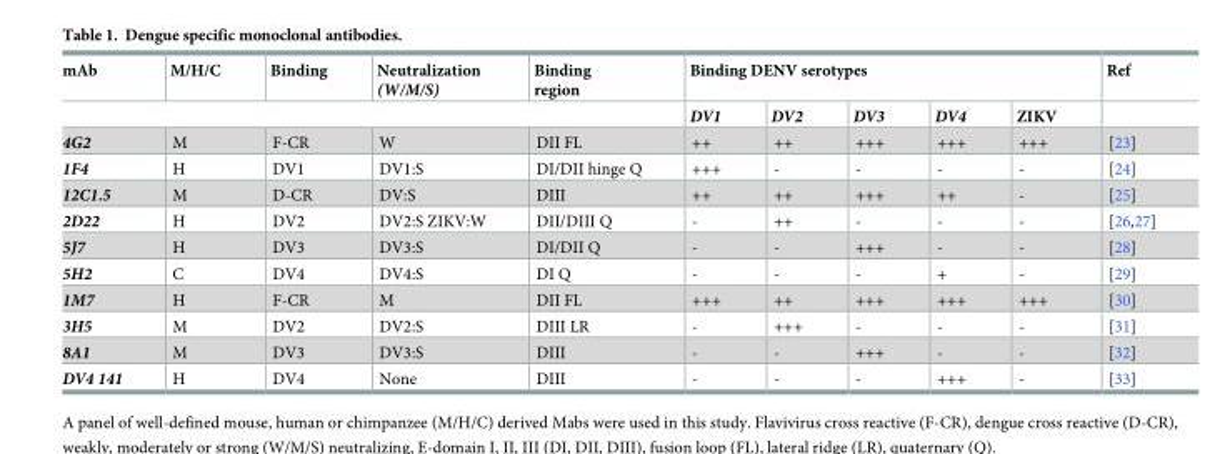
<table><thead><tr><td rowspan="2">mAb</td><td rowspan="2">M/H/C</td><td rowspan="2">Binding</td><td rowspan="2">Neutralization (W/M/S)</td><td rowspan="2">Binding region</td><td colspan="5">Binding DENV serotypes</td><td rowspan="2">Ref</td></tr><tr><td>DV1</td><td>DV2</td><td>DV3</td><td>DV4</td><td>ZIKV</td></tr></thead><tbody><tr><td>4G2</td><td>M</td><td>F-CR</td><td>W</td><td>DII FL</td><td>++</td><td>++</td><td>+++</td><td>+++</td><td>+++</td><td>[23]</td></tr><tr><td>1F4</td><td>H</td><td>DV1</td><td>DV1:S</td><td>DI/DII hinge Q</td><td>+++</td><td>-</td><td>-</td><td>-</td><td>-</td><td>[24]</td></tr><tr><td>12C1.5</td><td>M</td><td>D-CR</td><td>DV:S</td><td>DIII</td><td>++</td><td>++</td><td>+++</td><td>++</td><td>-</td><td>[25]</td></tr><tr><td>2D22</td><td>H</td><td>DV2</td><td>DV2:S ZIKV:W</td><td>DII/DIII Q</td><td>-</td><td>++</td><td>-</td><td>-</td><td>-</td><td>[26,27]</td></tr><tr><td>5J7</td><td>H</td><td>DV3</td><td>DV3:S</td><td>DI/DII Q</td><td>-</td><td>-</td><td>+++</td><td>-</td><td>-</td><td>[28]</td></tr><tr><td>5H2</td><td>C</td><td>DV4</td><td>DV4:S</td><td>DI Q</td><td>-</td><td>-</td><td>-</td><td>+</td><td>-</td><td>[29]</td></tr><tr><td>1M7</td><td>H</td><td>F-CR</td><td>M</td><td>DII FL</td><td>+++</td><td>++</td><td>+++</td><td>+++</td><td>+++</td><td>[30]</td></tr><tr><td>3H5</td><td>M</td><td>DV2</td><td>DV2:S</td><td>DIII LR</td><td>-</td><td>+++</td><td>-</td><td>-</td><td>-</td><td>[31]</td></tr><tr><td>8A1</td><td>M</td><td>DV3</td><td>DV3:S</td><td>DIII</td><td>-</td><td>-</td><td>+++</td><td>-</td><td>-</td><td>[32]</td></tr><tr><td>DV4 141</td><td>H</td><td>DV4</td><td>None</td><td>DIII</td><td>-</td><td>-</td><td>-</td><td>+++</td><td>-</td><td>[33]</td></tr></tbody></table>